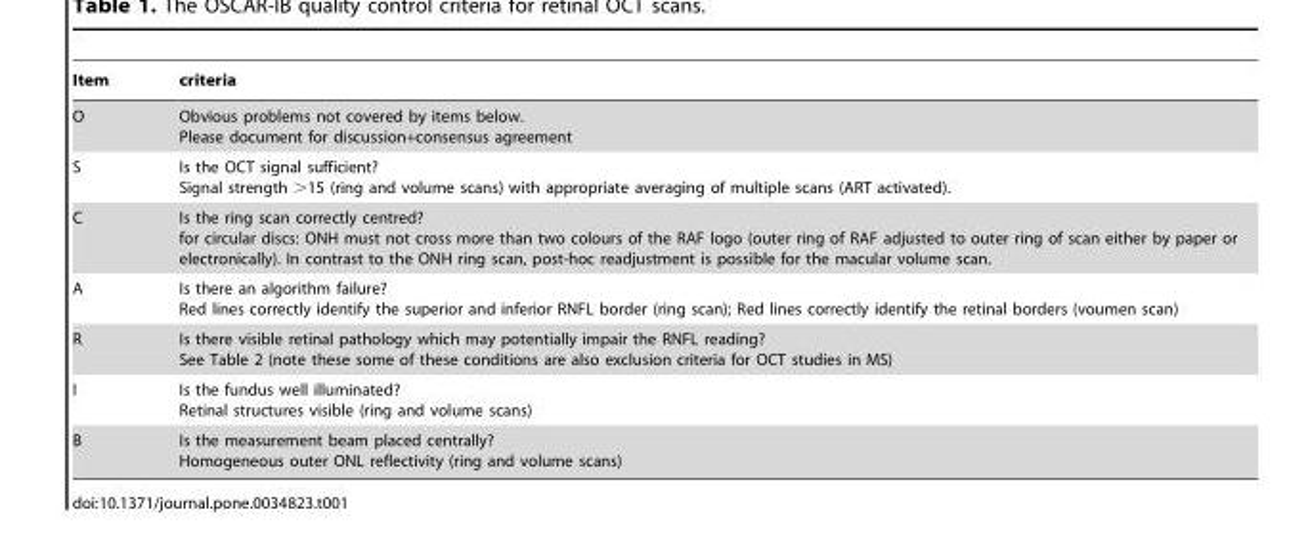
<table><thead><tr><td>Item</td><td>criteria</td></tr></thead><tbody><tr><td>O</td><td>Obvious problems not covered by items below. Please document for discussion+consensus agreement</td></tr><tr><td>S</td><td>Is the OCT signal sufficient? Signal strength &gt;15 (ring and volume scans) with appropriate averaging of multiple scans (ART activated).</td></tr><tr><td>C</td><td>Is the ring scan correctly centred? for circular discs: ONH must not cross more than two colours of the RAF logo (outer ring of RAF adjusted to outer ring of scan either by paper or electronically). In contrast to the ONH ring scan, post-hoc readjustment is possible for the macular volume scan.</td></tr><tr><td>A</td><td>Is there an algorithm failure? Red lines correctly identify the superior and inferior RNFL border (ring scan); Red lines correctly identify the retinal borders (voumen scan)</td></tr><tr><td>R</td><td>Is there visible retinal pathology which may potentially impair the RNFL reading? See Table 2 (note these some of these conditions are also exclusion criteria for OCT studies in MS)</td></tr><tr><td>I</td><td>Is the fundus well illuminated? Retinal structures visible (ring and volume scans)</td></tr><tr><td>B</td><td>Is the measurement beam placed centrally? Homogeneous outer ONL reflectivity (ring and volume scans)</td></tr></tbody></table>